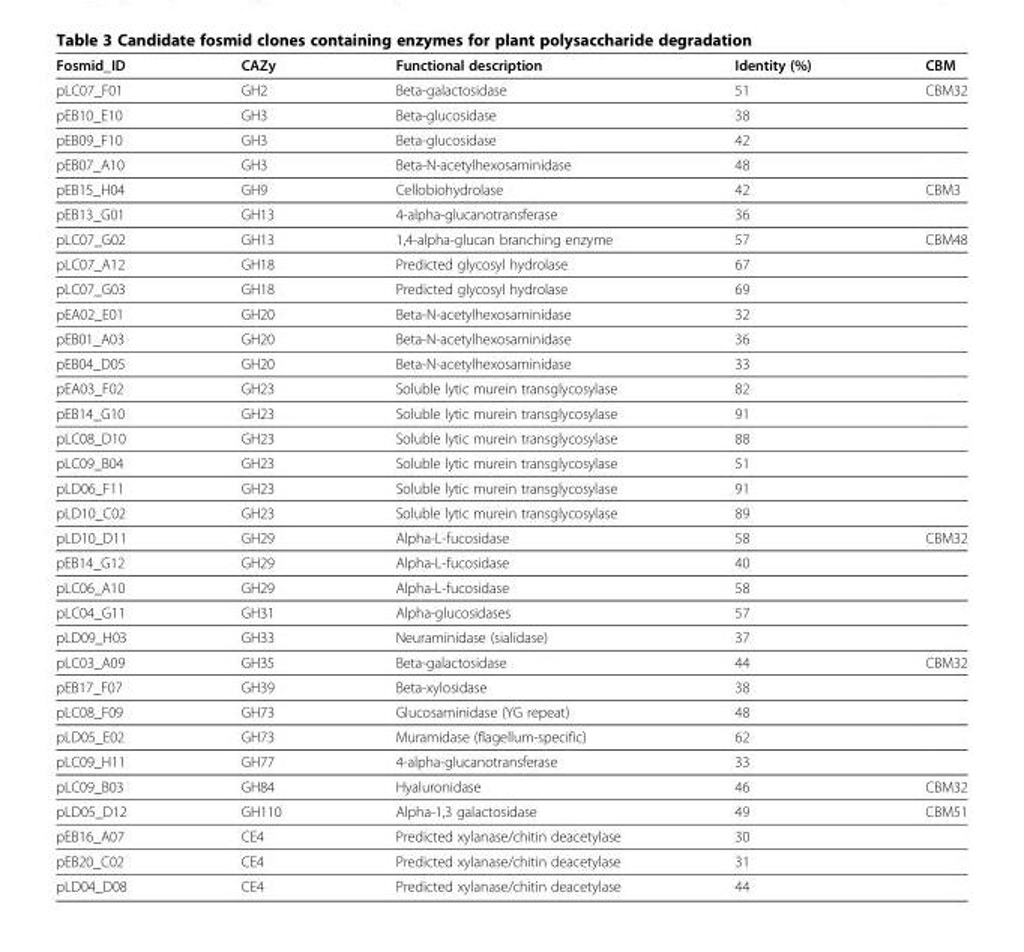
<table><thead><tr><td>Fosmid_ID</td><td>CAZy</td><td>Functional description</td><td>Identity (%)</td><td>CBM</td></tr></thead><tbody><tr><td>pLC07_F01</td><td>GH2</td><td>Beta-galactosidase</td><td>51</td><td>CBM32</td></tr><tr><td>pEB10_E10</td><td>GH3</td><td>Beta-glucosidase</td><td>38</td><td></td></tr><tr><td>pEB09_F10</td><td>GH3</td><td>Beta-glucosidase</td><td>42</td><td></td></tr><tr><td>pEB07_A10</td><td>GH3</td><td>Beta-N-acetylhexosaminidase</td><td>48</td><td></td></tr><tr><td>pEB15_H04</td><td>GH9</td><td>Cellobiohydrolase</td><td>42</td><td>CBM3</td></tr><tr><td>pEB13_G01</td><td>GH13</td><td>4-alpha-glucanotransferase</td><td>36</td><td></td></tr><tr><td>pLC07_G02</td><td>GH13</td><td>1,4-alpha-glucan branching enzyme</td><td>57</td><td>CBM48</td></tr><tr><td>pLC07_A12</td><td>GH18</td><td>Predicted glycosyl hydrolase</td><td>67</td><td></td></tr><tr><td>pLC07_G03</td><td>GH18</td><td>Predicted glycosyl hydrolase</td><td>69</td><td></td></tr><tr><td>pEA02_E01</td><td>GH20</td><td>Beta-N-acetylhexosaminidase</td><td>32</td><td></td></tr><tr><td>pEB01_A03</td><td>GH20</td><td>Beta-N-acetylhexosaminidase</td><td>36</td><td></td></tr><tr><td>pEB04_D05</td><td>GH20</td><td>Beta-N-acetylhexosaminidase</td><td>33</td><td></td></tr><tr><td>pEA03_F02</td><td>GH23</td><td>Soluble lytic murein transglycosylase</td><td>82</td><td></td></tr><tr><td>pEB14_G10</td><td>GH23</td><td>Soluble lytic murein transglycosylase</td><td>91</td><td></td></tr><tr><td>pLC08_D10</td><td>GH23</td><td>Soluble lytic murein transglycosylase</td><td>88</td><td></td></tr><tr><td>pLC09_B04</td><td>GH23</td><td>Soluble lytic murein transglycosylase</td><td>51</td><td></td></tr><tr><td>pLD06_F11</td><td>GH23</td><td>Soluble lytic murein transglycosylase</td><td>91</td><td></td></tr><tr><td>pLD10_C02</td><td>GH23</td><td>Soluble lytic murein transglycosylase</td><td>89</td><td></td></tr><tr><td>pLD10_D11</td><td>GH29</td><td>Alpha-L-fucosidase</td><td>58</td><td>CBM32</td></tr><tr><td>pEB14_G12</td><td>GH29</td><td>Alpha-L-fucosidase</td><td>40</td><td></td></tr><tr><td>pLC06_A10</td><td>GH29</td><td>Alpha-L-fucosidase</td><td>58</td><td></td></tr><tr><td>pLC04_G11</td><td>GH31</td><td>Alpha-glucosidases</td><td>57</td><td></td></tr><tr><td>pLD09_H03</td><td>GH33</td><td>Neuraminidase (sialidase)</td><td>37</td><td></td></tr><tr><td>pLC03_A09</td><td>GH35</td><td>Beta-galactosidase</td><td>44</td><td>CBM32</td></tr><tr><td>pEB17_F07</td><td>GH39</td><td>Beta-xylosidase</td><td>38</td><td></td></tr><tr><td>pLC08_F09</td><td>GH73</td><td>Glucosaminidase (YG repeat)</td><td>48</td><td></td></tr><tr><td>pLD05_E02</td><td>GH73</td><td>Muramidase (flagellum-specific)</td><td>62</td><td></td></tr><tr><td>pLC09_H11</td><td>GH77</td><td>4-alpha-glucanotransferase</td><td>33</td><td></td></tr><tr><td>pLC09_B03</td><td>GH84</td><td>Hyaluronidase</td><td>46</td><td>CBM32</td></tr><tr><td>pLD05_D12</td><td>GH110</td><td>Alpha-1,3 galactosidase</td><td>49</td><td>CBM51</td></tr><tr><td>pEB16_A07</td><td>CE4</td><td>Predicted xylanase/chitin deacetylase</td><td>30</td><td></td></tr><tr><td>pEB20_C02</td><td>CE4</td><td>Predicted xylanase/chitin deacetylase</td><td>31</td><td></td></tr><tr><td>pLD04_D08</td><td>CE4</td><td>Predicted xylanase/chitin deacetylase</td><td>44</td><td></td></tr></tbody></table>